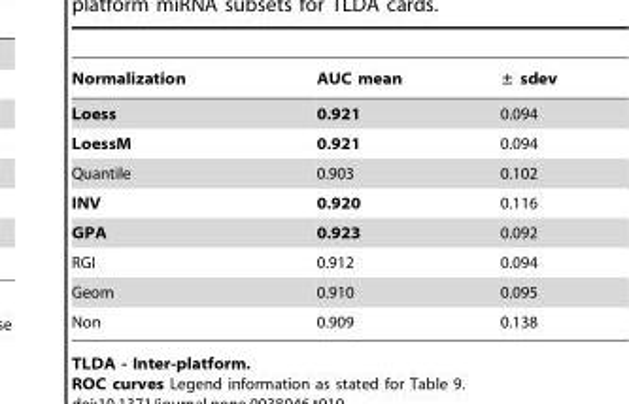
<table><thead><tr><td>Normalization</td><td>AUC mean</td><td>± sdev</td></tr></thead><tbody><tr><td>Loess</td><td>0.921</td><td>0.094</td></tr><tr><td>LoessM</td><td>0.921</td><td>0.094</td></tr><tr><td>Quantile</td><td>0.903</td><td>0.102</td></tr><tr><td>INV</td><td>0.920</td><td>0.116</td></tr><tr><td>GPA</td><td>0.923</td><td>0.092</td></tr><tr><td>RGI</td><td>0.912</td><td>0.094</td></tr><tr><td>Geom</td><td>0.910</td><td>0.095</td></tr><tr><td>Non</td><td>0.909</td><td>0.138</td></tr></tbody></table>